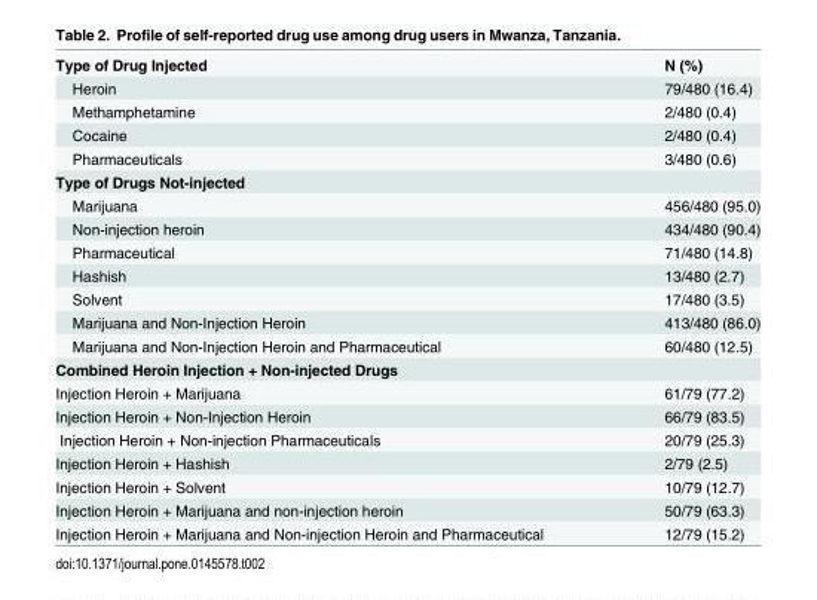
<table><tbody><tr><td>Type of Drug Injected</td><td>N (%)</td></tr><tr><td>Heroin</td><td>79/480 (16.4)</td></tr><tr><td>Methamphetamine</td><td>2/480 (0.4)</td></tr><tr><td>Cocaine</td><td>2/480 (0.4)</td></tr><tr><td>Pharmaceuticals</td><td>3/480 (0.6)</td></tr><tr><td colspan="2">Type of Drugs Not-injected</td></tr><tr><td>Marijuana</td><td>456/480 (95.0)</td></tr><tr><td>Non-injection heroin</td><td>434/480 (90.4)</td></tr><tr><td>Pharmaceutical</td><td>71/480 (14.8)</td></tr><tr><td>Hashish</td><td>13/480 (2.7)</td></tr><tr><td>Solvent</td><td>17/480 (3.5)</td></tr><tr><td>Marijuana and Non-Injection Heroin</td><td>413/480 (86.0)</td></tr><tr><td>Marijuana and Non-Injection Heroin and Pharmaceutical</td><td>60/480 (12.5)</td></tr><tr><td colspan="2">Combined Heroin Injection + Non-injected Drugs</td></tr><tr><td>Injection Heroin + Marijuana</td><td>61/79 (77.2)</td></tr><tr><td>Injection Heroin + Non-Injection Heroin</td><td>66/79 (83.5)</td></tr><tr><td>Injection Heroin + Non-injection Pharmaceuticals</td><td>20/79 (25.3)</td></tr><tr><td>Injection Heroin + Hashish</td><td>2/79 (2.5)</td></tr><tr><td>Injection Heroin + Solvent</td><td>10/79 (12.7)</td></tr><tr><td>Injection Heroin + Marijuana and non-injection heroin</td><td>50/79 (63.3)</td></tr><tr><td>Injection Heroin + Marijuana and Non-injection Heroin and Pharmaceutical</td><td>12/79 (15.2)</td></tr></tbody></table>